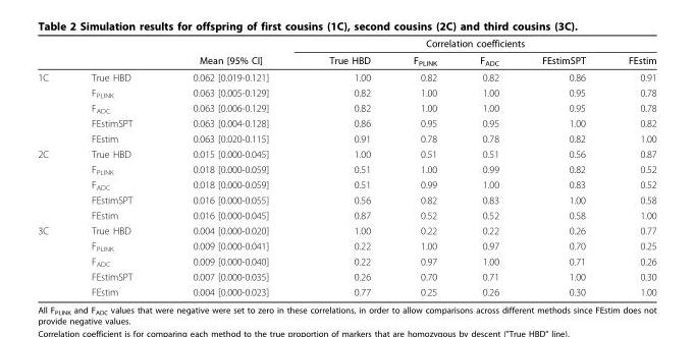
<table><thead><tr><td rowspan="2"></td><td rowspan="2"></td><td rowspan="2">Mean [95% CI]</td><td colspan="5">Correlation coefficients</td></tr><tr><td>True HBD</td><td>F<sub>PLINK</sub></td><td>F<sub>ADC</sub></td><td>FEstimSPT</td><td>FEstim</td></tr></thead><tbody><tr><td rowspan="5">1C</td><td>True HBD</td><td>0.062 [0.019-0.121]</td><td>1.00</td><td>0.82</td><td>0.82</td><td>0.86</td><td>0.91</td></tr><tr><td>F<sub>PLINK</sub></td><td>0.063 [0.005-0.129]</td><td>0.82</td><td>1.00</td><td>1.00</td><td>0.95</td><td>0.78</td></tr><tr><td>F<sub>ADC</sub></td><td>0.063 [0.006-0.129]</td><td>0.82</td><td>1.00</td><td>1.00</td><td>0.95</td><td>0.78</td></tr><tr><td>FEstimSPT</td><td>0.063 [0.004-0.128]</td><td>0.86</td><td>0.95</td><td>0.95</td><td>1.00</td><td>0.82</td></tr><tr><td>FEstim</td><td>0.063 [0.020-0.115]</td><td>0.91</td><td>0.78</td><td>0.78</td><td>0.82</td><td>1.00</td></tr><tr><td rowspan="5">2C</td><td>True HBD</td><td>0.015 [0.000-0.045]</td><td>1.00</td><td>0.51</td><td>0.51</td><td>0.56</td><td>0.87</td></tr><tr><td>F<sub>PLINK</sub></td><td>0.018 [0.000-0.059]</td><td>0.51</td><td>1.00</td><td>0.99</td><td>0.82</td><td>0.52</td></tr><tr><td>F<sub>ADC</sub></td><td>0.018 [0.000-0.059]</td><td>0.51</td><td>0.99</td><td>1.00</td><td>0.83</td><td>0.52</td></tr><tr><td>FEstimSPT</td><td>0.016 [0.000-0.055]</td><td>0.56</td><td>0.82</td><td>0.83</td><td>1.00</td><td>0.58</td></tr><tr><td>FEstim</td><td>0.016 [0.000-0.045]</td><td>0.87</td><td>0.52</td><td>0.52</td><td>0.58</td><td>1.00</td></tr><tr><td rowspan="5">3C</td><td>True HBD</td><td>0.004 [0.000-0.020]</td><td>1.00</td><td>0.22</td><td>0.22</td><td>0.26</td><td>0.77</td></tr><tr><td>F<sub>PLINK</sub></td><td>0.009 [0.000-0.041]</td><td>0.22</td><td>1.00</td><td>0.97</td><td>0.70</td><td>0.25</td></tr><tr><td>F<sub>ADC</sub></td><td>0.009 [0.000-0.040]</td><td>0.22</td><td>0.97</td><td>1.00</td><td>0.71</td><td>0.26</td></tr><tr><td>FEstimSPT</td><td>0.007 [0.000-0.035]</td><td>0.26</td><td>0.70</td><td>0.71</td><td>1.00</td><td>0.30</td></tr><tr><td>FEstim</td><td>0.004 [0.000-0.023]</td><td>0.77</td><td>0.25</td><td>0.26</td><td>0.30</td><td>1.00</td></tr></tbody></table>